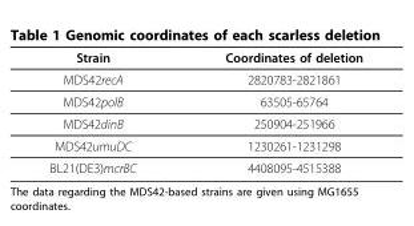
<table><thead><tr><td>Strain</td><td>Coordinates of deletion</td></tr></thead><tbody><tr><td>MDS42recA</td><td>2820783-2821861</td></tr><tr><td>MDS42polB</td><td>63505-65764</td></tr><tr><td>MDS42dinB</td><td>250904-251966</td></tr><tr><td>MDS42umuDC</td><td>1230261-1231298</td></tr><tr><td>BL21(DE3)mcrBC</td><td>4408095-4515388</td></tr></tbody></table>